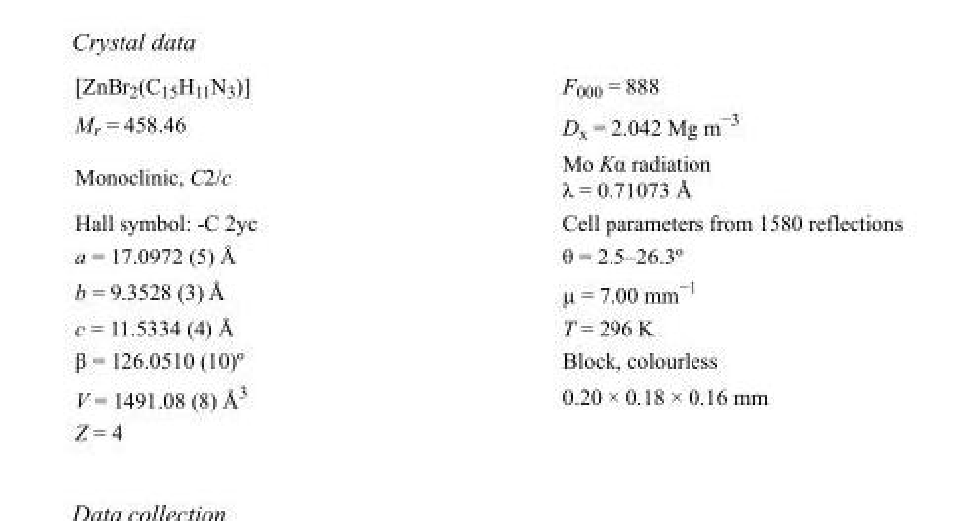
<table><tbody><tr><td>[ZnBr<sub>2</sub>(C<sub>15</sub>H<sub>11</sub>N<sub>3</sub>)]</td><td>F000 = 888</td></tr><tr><td>M<sub>r</sub> = 458.46</td><td>D<sub>x</sub> = 2.042 Mg m<sup>−3</sup></td></tr><tr><td>Monoclinic, C2/c</td><td>Mo Kα radiation λ = 0.71073 Å</td></tr><tr><td>Hall symbol: -C 2yc</td><td>Cell parameters from 1580 reflections</td></tr><tr><td>a = 17.0972 (5) Å</td><td>θ = 2.5–26.3º</td></tr><tr><td>b = 9.3528 (3) Å</td><td>µ = 7.00 mm<sup>−1</sup></td></tr><tr><td>c = 11.5334 (4) Å</td><td>T = 296 K</td></tr><tr><td>β = 126.0510 (10)º</td><td>Block, colourless</td></tr><tr><td>V = 1491.08 (8) Å<sup>3</sup></td><td>0.20 × 0.18 × 0.16 mm</td></tr><tr><td>Z = 4</td><td></td></tr></tbody></table>